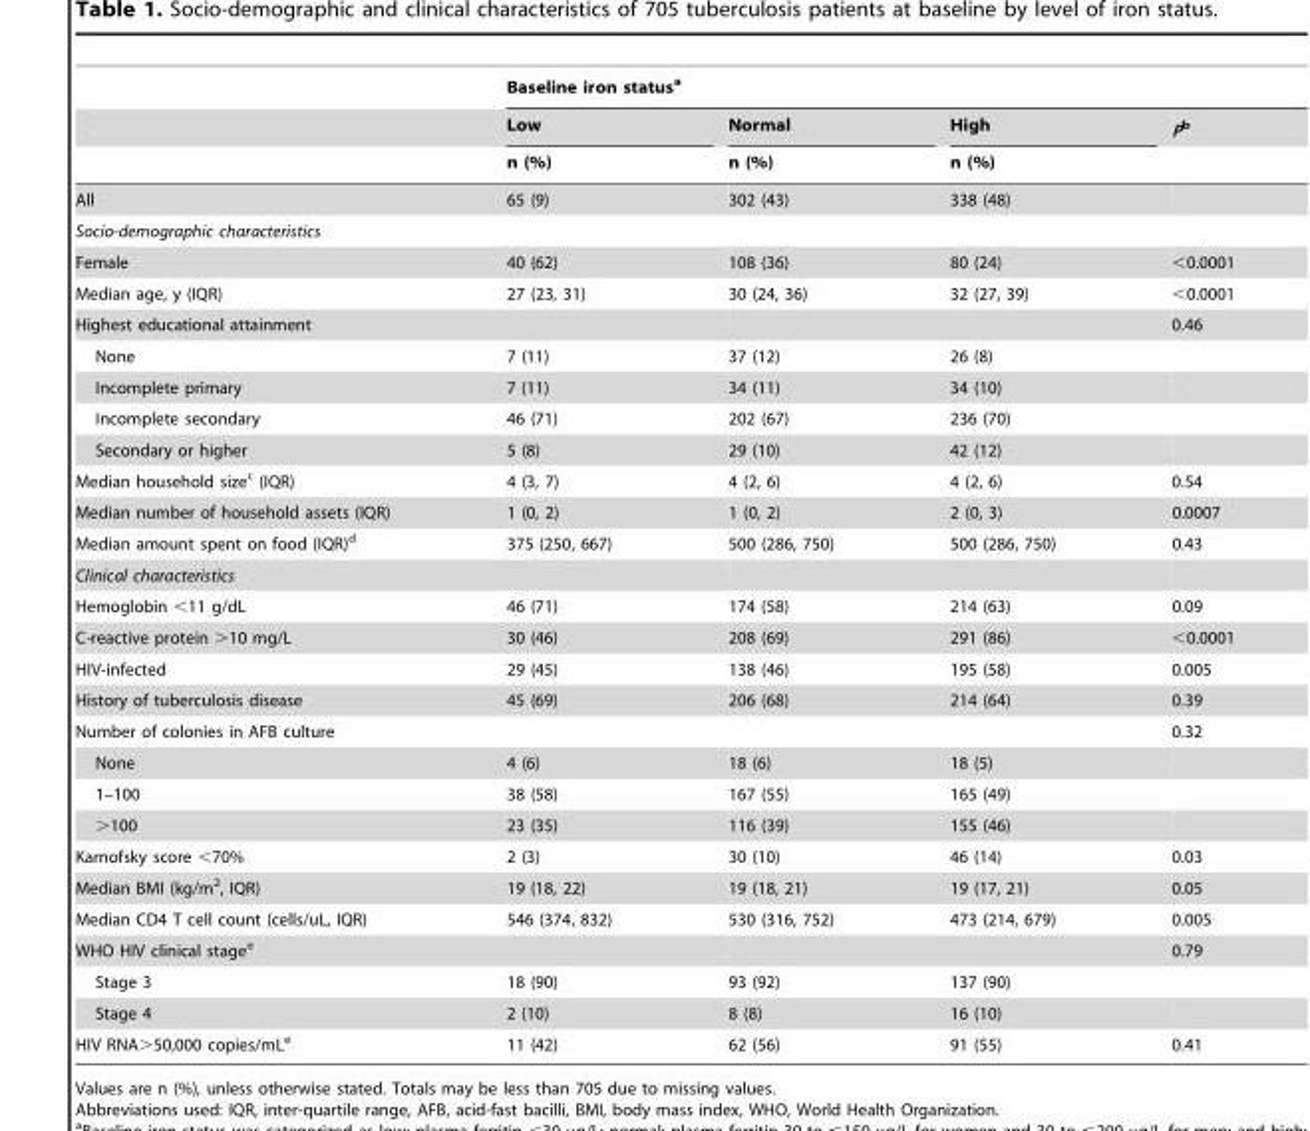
<table><thead><tr><td rowspan="3"></td><td colspan="4">Baseline iron status<sup>a</sup></td></tr><tr><td rowspan="2">Low n (%)</td><td rowspan="2">Normal n (%)</td><td rowspan="2">High n (%)</td><td rowspan="2">Pb</td></tr><tr></tr></thead><tbody><tr><td>All</td><td>65 (9)</td><td>302 (43)</td><td>338 (48)</td><td></td></tr><tr><td colspan="5">Socio-demographic characteristics</td></tr><tr><td>Female</td><td>40 (62)</td><td>108 (36)</td><td>80 (24)</td><td>&lt;0.0001</td></tr><tr><td>Median age, y (IQR)</td><td>27 (23, 31)</td><td>30 (24, 36)</td><td>32 (27, 39)</td><td>&lt;0.0001</td></tr><tr><td>Highest educational attainment</td><td></td><td></td><td></td><td>0.46</td></tr><tr><td>None</td><td>7 (11)</td><td>37 (12)</td><td>26 (8)</td><td></td></tr><tr><td>Incomplete primary</td><td>7 (11)</td><td>34 (11)</td><td>34 (10)</td><td></td></tr><tr><td>Incomplete secondary</td><td>46 (71)</td><td>202 (67)</td><td>236 (70)</td><td></td></tr><tr><td>Secondary or higher</td><td>5 (8)</td><td>29 (10)</td><td>42 (12)</td><td></td></tr><tr><td>Median household size<sup>c</sup> (IQR)</td><td>4 (3, 7)</td><td>4 (2, 6)</td><td>4 (2, 6)</td><td>0.54</td></tr><tr><td>Median number of household assets (IQR)</td><td>1 (0, 2)</td><td>1 (0, 2)</td><td>2 (0, 3)</td><td>0.0007</td></tr><tr><td>Median amount spent on food (IQR)<sup>d</sup></td><td>375 (250, 667)</td><td>500 (286, 750)</td><td>500 (286, 750)</td><td>0.43</td></tr><tr><td colspan="5">Clinical characteristics</td></tr><tr><td>Hemoglobin &lt;11 g/dL</td><td>46 (71)</td><td>174 (58)</td><td>214 (63)</td><td>0.09</td></tr><tr><td>C-reactive protein &gt;10 mg/L</td><td>30 (46)</td><td>208 (69)</td><td>291 (86)</td><td>&lt;0.0001</td></tr><tr><td>HIV-infected</td><td>29 (45)</td><td>138 (46)</td><td>195 (58)</td><td>0.005</td></tr><tr><td>History of tuberculosis disease</td><td>45 (69)</td><td>206 (68)</td><td>214 (64)</td><td>0.39</td></tr><tr><td>Number of colonies in AFB culture</td><td></td><td></td><td></td><td>0.32</td></tr><tr><td>None</td><td>4 (6)</td><td>18 (6)</td><td>18 (5)</td><td></td></tr><tr><td>1–100</td><td>38 (58)</td><td>167 (55)</td><td>165 (49)</td><td></td></tr><tr><td>&gt;100</td><td>23 (35)</td><td>116 (39)</td><td>155 (46)</td><td></td></tr><tr><td>Karnofsky score &lt;70%</td><td>2 (3)</td><td>30 (10)</td><td>46 (14)</td><td>0.03</td></tr><tr><td>Median BMI (kg/m<sup>2</sup>, IQR)</td><td>19 (18, 22)</td><td>19 (18, 21)</td><td>19 (17, 21)</td><td>0.05</td></tr><tr><td>Median CD4 T cell count (cells/uL, IQR)</td><td>546 (374, 832)</td><td>530 (316, 752)</td><td>473 (214, 679)</td><td>0.005</td></tr><tr><td>WHO HIV clinical stage<sup>e</sup></td><td></td><td></td><td></td><td>0.79</td></tr><tr><td>Stage 3</td><td>18 (90)</td><td>93 (92)</td><td>137 (90)</td><td></td></tr><tr><td>Stage 4</td><td>2 (10)</td><td>8 (8)</td><td>16 (10)</td><td></td></tr><tr><td>HIV RNA&gt;50,000 copies/mL<sup>e</sup></td><td>11 (42)</td><td>62 (56)</td><td>91 (55)</td><td>0.41</td></tr></tbody></table>